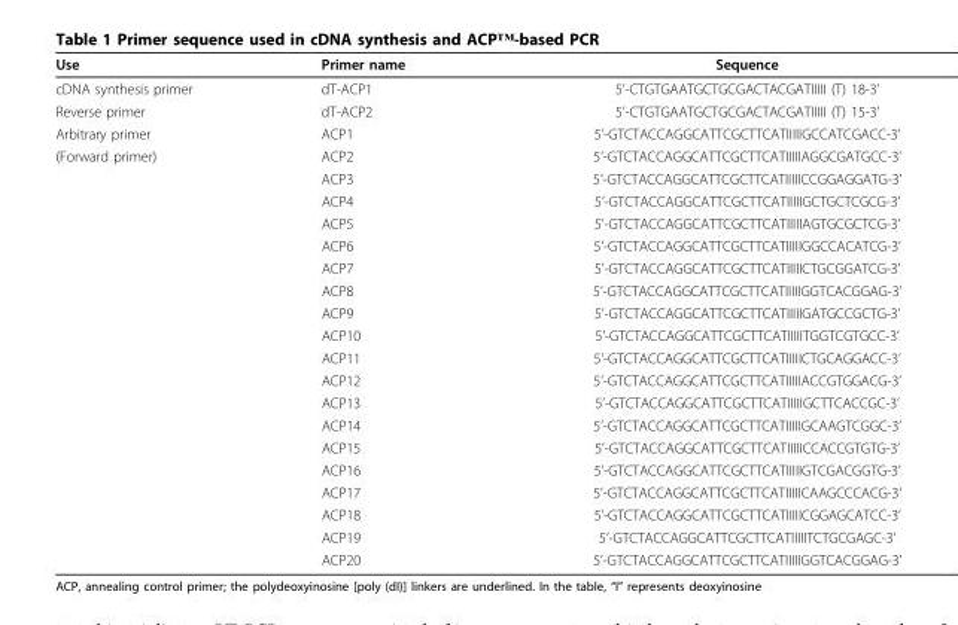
<table><thead><tr><td>Use</td><td>Primer name</td><td>Sequence</td></tr></thead><tbody><tr><td>cDNA synthesis primer</td><td>dT-ACP1</td><td>5’-CTGTGAATGCTGCGACTACGATIIIII (T) 18-3’</td></tr><tr><td>Reverse primer</td><td>dT-ACP2</td><td>5’-CTGTGAATGCTGCGACTACGATIIIII (T) 15-3’</td></tr><tr><td>Arbitrary primer</td><td>ACP1</td><td>5’-GTCTACCAGGCATTCGCTTCATIIIIIGCCATCGACC-3’</td></tr><tr><td rowspan="19">(Forward primer)</td><td>ACP2</td><td>5’-GTCTACCAGGCATTCGCTTCATIIIIIAGGCGATGCC-3’</td></tr><tr><td>ACP3</td><td>5’-GTCTACCAGGCATTCGCTTCATIIIIICCGGAGGATG-3’</td></tr><tr><td>ACP4</td><td>5’-GTCTACCAGGCATTCGCTTCATIIIIIGCTGCTCGCG-3’</td></tr><tr><td>ACP5</td><td>5’-GTCTACCAGGCATTCGCTTCATIIIIIAGTGCGCTCG-3’</td></tr><tr><td>ACP6</td><td>5’-GTCTACCAGGCATTCGCTTCATIIIIIGGCCACATCG-3’</td></tr><tr><td>ACP7</td><td>5’-GTCTACCAGGCATTCGCTTCATIIIIICTGCGGATCG-3’</td></tr><tr><td>ACP8</td><td>5’-GTCTACCAGGCATTCGCTTCATIIIIIGGTCACGGAG-3’</td></tr><tr><td>ACP9</td><td>5’-GTCTACCAGGCATTCGCTTCATIIIIIGATGCCGCTG-3’</td></tr><tr><td>ACP10</td><td>5’-GTCTACCAGGCATTCGCTTCATIIIIITGGTCGTGCC-3’</td></tr><tr><td>ACP11</td><td>5’-GTCTACCAGGCATTCGCTTCATIIIIICTGCAGGACC-3’</td></tr><tr><td>ACP12</td><td>5’-GTCTACCAGGCATTCGCTTCATIIIIIACCGTGGACG-3’</td></tr><tr><td>ACP13</td><td>5’-GTCTACCAGGCATTCGCTTCATIIIIIGCTTCACCGC-3’</td></tr><tr><td>ACP14</td><td>5’-GTCTACCAGGCATTCGCTTCATIIIIIGCAAGTCGGC-3’</td></tr><tr><td>ACP15</td><td>5’-GTCTACCAGGCATTCGCTTCATIIIIICCACCGTGTG-3’</td></tr><tr><td>ACP16</td><td>5’-GTCTACCAGGCATTCGCTTCATIIIIIGTCGACGGTG-3’</td></tr><tr><td>ACP17</td><td>5’-GTCTACCAGGCATTCGCTTCATIIIIICAAGCCCACG-3’</td></tr><tr><td>ACP18</td><td>5’-GTCTACCAGGCATTCGCTTCATIIIIICGGAGCATCC-3’</td></tr><tr><td>ACP19</td><td>5’-GTCTACCAGGCATTCGCTTCATIIIIITCTGCGAGC-3’</td></tr><tr><td>ACP20</td><td>5’-GTCTACCAGGCATTCGCTTCATIIIIIGGTCACGGAG-3’</td></tr></tbody></table>